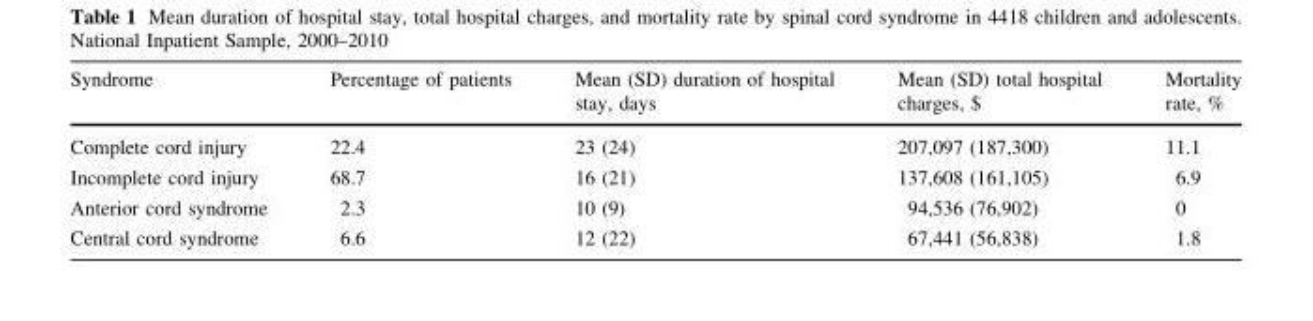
<table><thead><tr><td>Syndrome</td><td>Percentage of patients</td><td>Mean (SD) duration of hospital stay, days</td><td>Mean (SD) total hospital charges, $</td><td>Mortality rate, %</td></tr></thead><tbody><tr><td>Complete cord injury</td><td>22.4</td><td>23 (24)</td><td>207,097 (187,300)</td><td>11.1</td></tr><tr><td>Incomplete cord injury</td><td>68.7</td><td>16 (21)</td><td>137,608 (161,105)</td><td>6.9</td></tr><tr><td>Anterior cord syndrome</td><td>2.3</td><td>10 (9)</td><td>94,536 (76,902)</td><td>0</td></tr><tr><td>Central cord syndrome</td><td>6.6</td><td>12 (22)</td><td>67,441 (56,838)</td><td>1.8</td></tr></tbody></table>